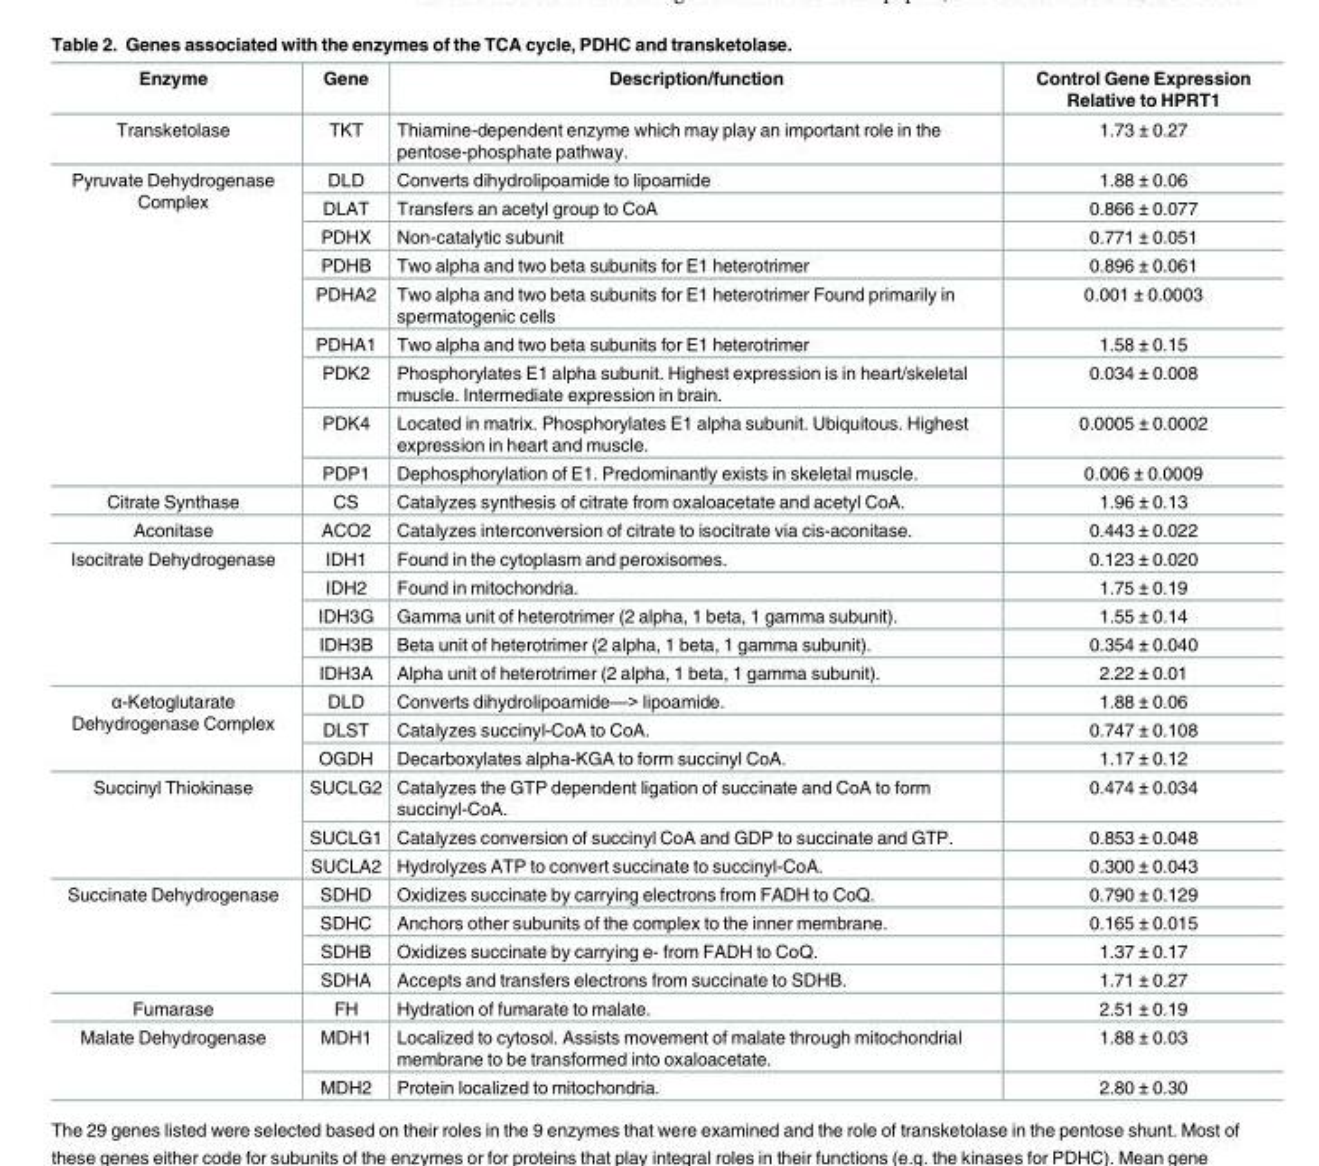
<table><thead><tr><td>Enzyme</td><td>Gene</td><td>Description/function</td><td>Control Gene Expression Relative to HPRT1</td></tr></thead><tbody><tr><td>Transketolase</td><td>TKT</td><td>Thiamine-dependent enzyme which may play an important role in the pentose-phosphate pathway.</td><td>1.73 ± 0.27</td></tr><tr><td rowspan="9">Pyruvate Dehydrogenase Complex</td><td>DLD</td><td>Converts dihydrolipoamide to lipoamide</td><td>1.88 ± 0.06</td></tr><tr><td>DLAT</td><td>Transfers an acetyl group to CoA</td><td>0.866 ± 0.077</td></tr><tr><td>PDHX</td><td>Non-catalytic subunit</td><td>0.771 ± 0.051</td></tr><tr><td>PDHB</td><td>Two alpha and two beta subunits for E1 heterotrimer</td><td>0.896 ± 0.061</td></tr><tr><td>PDHA2</td><td>Two alpha and two beta subunits for E1 heterotrimer Found primarily in spermatogenic cells</td><td>0.001 ± 0.0003</td></tr><tr><td>PDHA1</td><td>Two alpha and two beta subunits for E1 heterotrimer</td><td>1.58 ± 0.15</td></tr><tr><td>PDK2</td><td>Phosphorylates E1 alpha subunit. Highest expression is in heart/skeletal muscle. Intermediate expression in brain.</td><td>0.034 ± 0.008</td></tr><tr><td>PDK4</td><td>Located in matrix. Phosphorylates E1 alpha subunit. Ubiquitous. Highest expression in heart and muscle.</td><td>0.0005 ± 0.0002</td></tr><tr><td>PDP1</td><td>Dephosphorylation of E1. Predominantly exists in skeletal muscle.</td><td>0.006 ± 0.0009</td></tr><tr><td>Citrate Synthase</td><td>CS</td><td>Catalyzes synthesis of citrate from oxaloacetate and acetyl CoA.</td><td>1.96 ± 0.13</td></tr><tr><td>Aconitase</td><td>ACO2</td><td>Catalyzes interconversion of citrate to isocitrate via cis-aconitase.</td><td>0.443 ± 0.022</td></tr><tr><td rowspan="5">Isocitrate Dehydrogenase</td><td>IDH1</td><td>Found in the cytoplasm and peroxisomes.</td><td>0.123 ± 0.020</td></tr><tr><td>IDH2</td><td>Found in mitochondria.</td><td>1.75 ± 0.19</td></tr><tr><td>IDH3G</td><td>Gamma unit of heterotrimer (2 alpha, 1 beta, 1 gamma subunit).</td><td>1.55 ± 0.14</td></tr><tr><td>IDH3B</td><td>Beta unit of heterotrimer (2 alpha, 1 beta, 1 gamma subunit).</td><td>0.354 ± 0.040</td></tr><tr><td>IDH3A</td><td>Alpha unit of heterotrimer (2 alpha, 1 beta, 1 gamma subunit).</td><td>2.22 ± 0.01</td></tr><tr><td rowspan="3">α-Ketoglutarate Dehydrogenase Complex</td><td>DLD</td><td>Converts dihydrolipoamide—&gt; lipoamide.</td><td>1.88 ± 0.06</td></tr><tr><td>DLST</td><td>Catalyzes succinyl-CoA to CoA.</td><td>0.747 ± 0.108</td></tr><tr><td>OGDH</td><td>Decarboxylates alpha-KGA to form succinyl CoA.</td><td>1.17 ± 0.12</td></tr><tr><td rowspan="3">Succinyl Thiokinase</td><td>SUCLG2</td><td>Catalyzes the GTP dependent ligation of succinate and CoA to form succinyl-CoA.</td><td>0.474 ± 0.034</td></tr><tr><td>SUCLG1</td><td>Catalyzes conversion of succinyl CoA and GDP to succinate and GTP.</td><td>0.853 ± 0.048</td></tr><tr><td>SUCLA2</td><td>Hydrolyzes ATP to convert succinate to succinyl-CoA.</td><td>0.300 ± 0.043</td></tr><tr><td rowspan="4">Succinate Dehydrogenase</td><td>SDHD</td><td>Oxidizes succinate by carrying electrons from FADH to CoQ.</td><td>0.790 ± 0.129</td></tr><tr><td>SDHC</td><td>Anchors other subunits of the complex to the inner membrane.</td><td>0.165 ± 0.015</td></tr><tr><td>SDHB</td><td>Oxidizes succinate by carrying e- from FADH to CoQ.</td><td>1.37 ± 0.17</td></tr><tr><td>SDHA</td><td>Accepts and transfers electrons from succinate to SDHB.</td><td>1.71 ± 0.27</td></tr><tr><td>Fumarase</td><td>FH</td><td>Hydration of fumarate to malate.</td><td>2.51 ± 0.19</td></tr><tr><td rowspan="2">Malate Dehydrogenase</td><td>MDH1</td><td>Localized to cytosol. Assists movement of malate through mitochondrial membrane to be transformed into oxaloacetate.</td><td>1.88 ± 0.03</td></tr><tr><td>MDH2</td><td>Protein localized to mitochondria.</td><td>2.80 ± 0.30</td></tr></tbody></table>